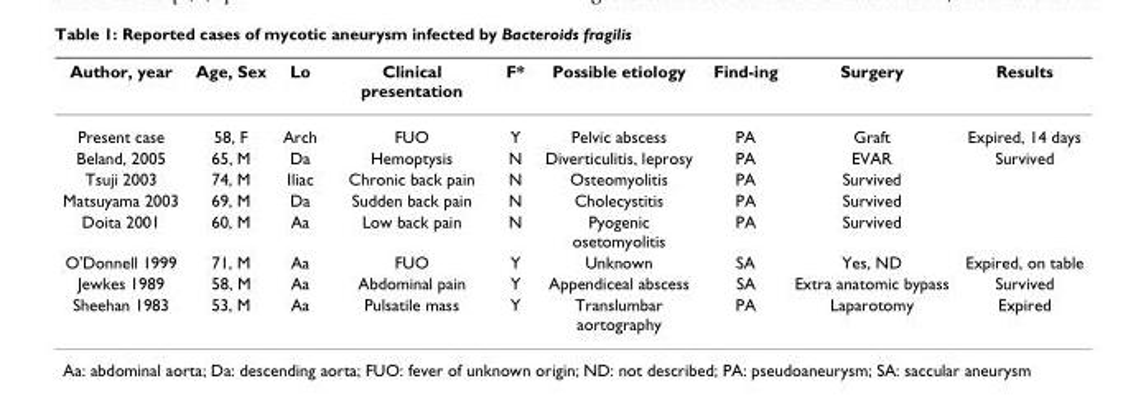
<table><thead><tr><td>Author, year</td><td>Age, Sex</td><td>Lo</td><td>Clinical presentation</td><td>F*</td><td>Possible etiology</td><td>Find-ing</td><td>Surgery</td><td>Results</td></tr></thead><tbody><tr><td>Present case</td><td>58, F</td><td>Arch</td><td>FUO</td><td>Y</td><td>Pelvic abscess</td><td>PA</td><td>Graft</td><td>Expired, 14 days</td></tr><tr><td>Beland, 2005</td><td>65, M</td><td>Da</td><td>Hemoptysis</td><td>N</td><td>Diverticulitis, leprosy</td><td>PA</td><td>EVAR</td><td>Survived</td></tr><tr><td>Tsuji 2003</td><td>74, M</td><td>Iliac</td><td>Chronic back pain</td><td>N</td><td>Osteomyolitis</td><td>PA</td><td>Survived</td><td></td></tr><tr><td>Matsuyama 2003</td><td>69, M</td><td>Da</td><td>Sudden back pain</td><td>N</td><td>Cholecystitis</td><td>PA</td><td>Survived</td><td></td></tr><tr><td>Doita 2001</td><td>60, M</td><td>Aa</td><td>Low back pain</td><td>N</td><td>Pyogenic osetomyolitis</td><td>PA</td><td>Survived</td><td></td></tr><tr><td>O&#x27;Donnell 1999</td><td>71, M</td><td>Aa</td><td>FUO</td><td>Y</td><td>Unknown</td><td>SA</td><td>Yes, ND</td><td>Expired, on table</td></tr><tr><td>Jewkes 1989</td><td>58, M</td><td>Aa</td><td>Abdominal pain</td><td>Y</td><td>Appendiceal abscess</td><td>SA</td><td>Extra anatomic bypass</td><td>Survived</td></tr><tr><td>Sheehan 1983</td><td>53, M</td><td>Aa</td><td>Pulsatile mass</td><td>Y</td><td>Translumbar aortography</td><td>PA</td><td>Laparotomy</td><td>Expired</td></tr></tbody></table>